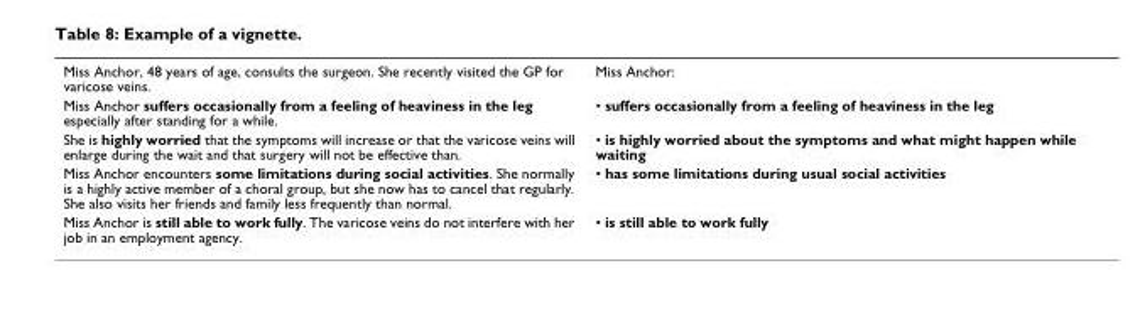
<table><tbody><tr><td>Miss Anchor, 48 years of age, consults the surgeon. She recently visited the GP for varicose veins.</td><td>Miss Anchor:</td></tr><tr><td>Miss Anchor suffers occasionally from a feeling of heaviness in the leg especially after standing for a while.</td><td>• suffers occasionally from a feeling of heaviness in the leg</td></tr><tr><td>She is highly worried that the symptoms will increase or that the varicose veins will enlarge during the wait and that surgery will not be effective than.</td><td>• is highly worried about the symptoms and what might happen while waiting</td></tr><tr><td>Miss Anchor encounters some limitations during social activities. She normally is a highly active member of a choral group, but she now has to cancel that regularly. She also visits her friends and family less frequently than normal.</td><td>• has some limitations during usual social activities</td></tr><tr><td>Miss Anchor is still able to work fully. The varicose veins do not interfere with her job in an employment agency.</td><td>• is still able to work fully</td></tr></tbody></table>